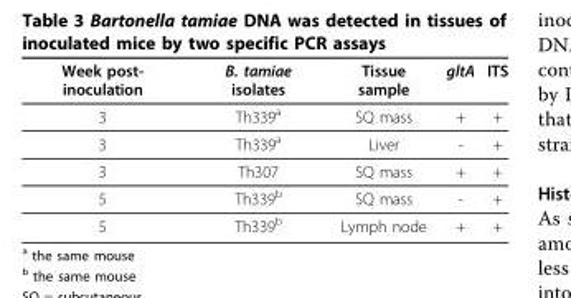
<table><thead><tr><td>Week post- inoculation</td><td>B. tamiae isolates</td><td>Tissue sample</td><td>gltA</td><td>ITS</td></tr></thead><tbody><tr><td>3</td><td>Th339<sup>a</sup></td><td>SQ mass</td><td>+</td><td>+</td></tr><tr><td>3</td><td>Th339<sup>a</sup></td><td>Liver</td><td>-</td><td>+</td></tr><tr><td>3</td><td>Th307</td><td>SQ mass</td><td>+</td><td>+</td></tr><tr><td>5</td><td>Th339<sup>b</sup></td><td>SQ mass</td><td>-</td><td>+</td></tr><tr><td>5</td><td>Th339<sup>b</sup></td><td>Lymph node</td><td>+</td><td>+</td></tr></tbody></table>